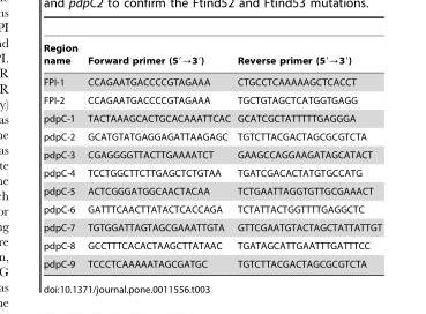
<table><thead><tr><td>Region name</td><td>Forward primer (59?39)</td><td>Reverse primer (59?39)</td></tr></thead><tbody><tr><td>FPI-1</td><td>CCAGAATGACCCCGTAGAAA</td><td>CTGCCTCAAAAAGCTCACCT</td></tr><tr><td>FPI-2</td><td>CCAGAATGACCCCGTAGAAA</td><td>TGCTGTAGCTCATGGTGAGG</td></tr><tr><td>pdpC-1</td><td>TACTAAAGCACTGCACAAATTCAC</td><td>GCATCGCTATTTTTGAGGGA</td></tr><tr><td>pdpC-2</td><td>GCATGTATGAGGAGATTAAGAGC</td><td>TGTCTTACGACTAGCGCGTCTA</td></tr><tr><td>pdpC-3</td><td>CGAGGGGTTACTTGAAAATCT</td><td>GAAGCCAGGAAGATAGCATACT</td></tr><tr><td>pdpC-4</td><td>TCCTGGCTTCTTGAGCTCTGTAA</td><td>TGATCGACACTATGTGCCATG</td></tr><tr><td>pdpC-5</td><td>ACTCGGGATGGCAACTACAA</td><td>TCTGAATTAGGTGTTGCGAAACT</td></tr><tr><td>pdpC-6</td><td>GATTTCAACTTATACTCACCAGA</td><td>TCTATTACTGGTTTTGAGGCTC</td></tr><tr><td>pdpC-7</td><td>TGTGGATTAGTAGCGAAATTGTA</td><td>GTTCGAATGTACTAGCTATTATTGT</td></tr><tr><td>pdpC-8</td><td>GCCTTTCACACTAAGCTTATAAC</td><td>TGATAGCATTGAATTTGATTTCC</td></tr><tr><td>pdpC-9</td><td>TCCCTCAAAAATAGCGATGC</td><td>TGTCTTACGACTAGCGCGTCTA</td></tr></tbody></table>